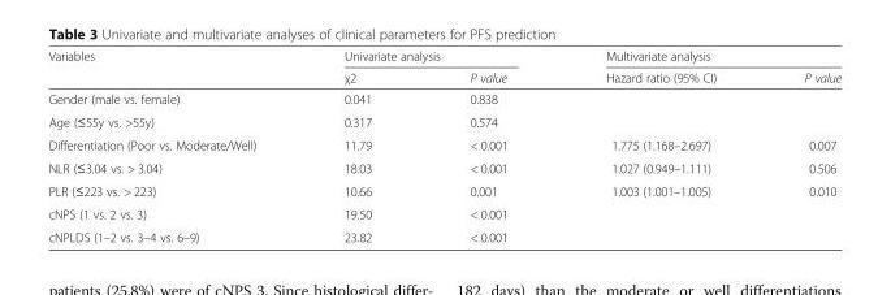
<table><thead><tr><td rowspan="2">Variables</td><td colspan="2">Univariate analysis</td><td colspan="2">Multivariate analysis</td></tr><tr><td>χ2</td><td>P value</td><td>Hazard ratio (95% CI)</td><td>P value</td></tr></thead><tbody><tr><td>Gender (male vs. female)</td><td>0.041</td><td>0.838</td><td></td><td></td></tr><tr><td>Age (≤55y vs. &gt;55y)</td><td>0.317</td><td>0.574</td><td></td><td></td></tr><tr><td>Differentiation (Poor vs. Moderate/Well)</td><td>11.79</td><td>&lt; 0.001</td><td>1.775 (1.168–2.697)</td><td>0.007</td></tr><tr><td>NLR (≤3.04 vs. &gt; 3.04)</td><td>18.03</td><td>&lt; 0.001</td><td>1.027 (0.949–1.111)</td><td>0.506</td></tr><tr><td>PLR (≤223 vs. &gt; 223)</td><td>10.66</td><td>0.001</td><td>1.003 (1.001–1.005)</td><td>0.010</td></tr><tr><td>cNPS (1 vs. 2 vs. 3)</td><td>19.50</td><td>&lt; 0.001</td><td></td><td></td></tr><tr><td>cNPLDS (1–2 vs. 3–4 vs. 6–9)</td><td>23.82</td><td>&lt; 0.001</td><td></td><td></td></tr></tbody></table>